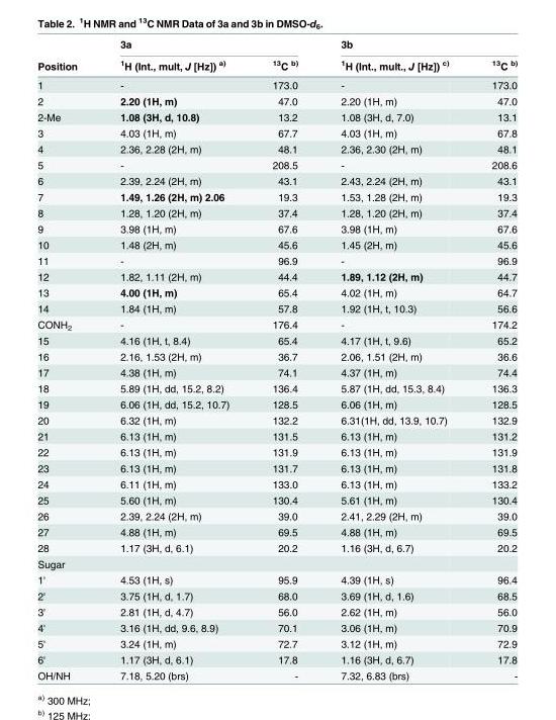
<table><thead><tr><td rowspan="2">Position</td><td colspan="2">3a</td><td colspan="2">3b</td></tr><tr><td><sup>1</sup>H (Int., mult, J [Hz]) <sup>a)</sup></td><td><sup>13</sup>C <sup>b)</sup></td><td><sup>1</sup>H (Int., mult., J [Hz]) <sup>c)</sup></td><td><sup>13</sup>C <sup>b)</sup></td></tr></thead><tbody><tr><td>1</td><td>-</td><td>173.0</td><td>-</td><td>173.0</td></tr><tr><td>2</td><td>2.20 (1H, m)</td><td>47.0</td><td>2.20 (1H, m)</td><td>47.0</td></tr><tr><td>2-Me</td><td>1.08 (3H, d, 10.8)</td><td>13.2</td><td>1.08 (3H, d, 7.0)</td><td>13.1</td></tr><tr><td>3</td><td>4.03 (1H, m)</td><td>67.7</td><td>4.03 (1H, m)</td><td>67.8</td></tr><tr><td>4</td><td>2.36, 2.28 (2H, m)</td><td>48.1</td><td>2.36, 2.30 (2H, m)</td><td>48.1</td></tr><tr><td>5</td><td>-</td><td>208.5</td><td>-</td><td>208.6</td></tr><tr><td>6</td><td>2.39, 2.24 (2H, m)</td><td>43.1</td><td>2.43, 2.24 (2H, m)</td><td>43.1</td></tr><tr><td>7</td><td>1.49, 1.26 (2H, m) 2.06</td><td>19.3</td><td>1.53, 1.28 (2H, m)</td><td>19.3</td></tr><tr><td>8</td><td>1.28, 1.20 (2H, m)</td><td>37.4</td><td>1.28, 1.20 (2H, m)</td><td>37.4</td></tr><tr><td>9</td><td>3.98 (1H, m)</td><td>67.6</td><td>3.98 (1H, m)</td><td>67.6</td></tr><tr><td>10</td><td>1.48 (2H, m)</td><td>45.6</td><td>1.45 (2H, m)</td><td>45.6</td></tr><tr><td>11</td><td>-</td><td>96.9</td><td>-</td><td>96.9</td></tr><tr><td>12</td><td>1.82, 1.11 (2H, m)</td><td>44.4</td><td>1.89, 1.12 (2H, m)</td><td>44.7</td></tr><tr><td>13</td><td>4.00 (1H, m)</td><td>65.4</td><td>4.02 (1H, m)</td><td>64.7</td></tr><tr><td>14</td><td>1.84 (1H, m)</td><td>57.8</td><td>1.92 (1H, t, 10.3)</td><td>56.6</td></tr><tr><td>CONH<sub>2</sub></td><td>-</td><td>176.4</td><td>-</td><td>174.2</td></tr><tr><td>15</td><td>4.16 (1H, t, 8.4)</td><td>65.4</td><td>4.17 (1H, t, 9.6)</td><td>65.2</td></tr><tr><td>16</td><td>2.16, 1.53 (2H, m)</td><td>36.7</td><td>2.06, 1.51 (2H, m)</td><td>36.6</td></tr><tr><td>17</td><td>4.38 (1H, m)</td><td>74.1</td><td>4.37 (1H, m)</td><td>74.4</td></tr><tr><td>18</td><td>5.89 (1H, dd, 15.2, 8.2)</td><td>136.4</td><td>5.87 (1H, dd, 15.3, 8.4)</td><td>136.3</td></tr><tr><td>19</td><td>6.06 (1H, dd, 15.2, 10.7)</td><td>128.5</td><td>6.06 (1H, m)</td><td>128.5</td></tr><tr><td>20</td><td>6.32 (1H, m)</td><td>132.2</td><td>6.31(1H, dd, 13.9, 10.7)</td><td>132.9</td></tr><tr><td>21</td><td>6.13 (1H, m)</td><td>131.5</td><td>6.13 (1H, m)</td><td>131.2</td></tr><tr><td>22</td><td>6.13 (1H, m)</td><td>131.9</td><td>6.13 (1H, m)</td><td>131.9</td></tr><tr><td>23</td><td>6.13 (1H, m)</td><td>131.7</td><td>6.13 (1H, m)</td><td>131.8</td></tr><tr><td>24</td><td>6.11 (1H, m)</td><td>133.0</td><td>6.13 (1H, m)</td><td>133.2</td></tr><tr><td>25</td><td>5.60 (1H, m)</td><td>130.4</td><td>5.61 (1H, m)</td><td>130.4</td></tr><tr><td>26</td><td>2.39, 2.24 (2H, m)</td><td>39.0</td><td>2.41, 2.29 (2H, m)</td><td>39.0</td></tr><tr><td>27</td><td>4.88 (1H, m)</td><td>69.5</td><td>4.88 (1H, m)</td><td>69.5</td></tr><tr><td>28</td><td>1.17 (3H, d, 6.1)</td><td>20.2</td><td>1.16 (3H, d, 6.7)</td><td>20.2</td></tr><tr><td colspan="5">Sugar</td></tr><tr><td>1&#x27;</td><td>4.53 (1H, s)</td><td>95.9</td><td>4.39 (1H, s)</td><td>96.4</td></tr><tr><td>2&#x27;</td><td>3.75 (1H, d, 1.7)</td><td>68.0</td><td>3.69 (1H, d, 1.6)</td><td>68.5</td></tr><tr><td>3&#x27;</td><td>2.81 (1H, d, 4.7)</td><td>56.0</td><td>2.62 (1H, m)</td><td>56.0</td></tr><tr><td>4&#x27;</td><td>3.16 (1H, dd, 9.6, 8.9)</td><td>70.1</td><td>3.06 (1H, m)</td><td>70.9</td></tr><tr><td>5&#x27;</td><td>3.24 (1H, m)</td><td>72.7</td><td>3.12 (1H, m)</td><td>72.9</td></tr><tr><td>6&#x27;</td><td>1.17 (3H, d, 6.1)</td><td>17.8</td><td>1.16 (3H, d, 6.7)</td><td>17.8</td></tr><tr><td>OH/NH</td><td>7.18, 5.20 (brs)</td><td>-</td><td>7.32, 6.83 (brs)</td><td>-</td></tr></tbody></table>